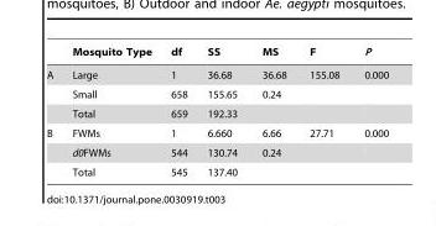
<table><thead><tr><td></td><td>Mosquito Type</td><td>df</td><td>SS</td><td>MS</td><td>F</td><td>P</td></tr></thead><tbody><tr><td rowspan="3">A</td><td>Large</td><td>1</td><td>36.68</td><td>36.68</td><td>155.08</td><td>0.000</td></tr><tr><td>Small</td><td>658</td><td>155.65</td><td>0.24</td><td></td><td></td></tr><tr><td>Total</td><td>659</td><td>192.33</td><td></td><td></td><td></td></tr><tr><td rowspan="3">B</td><td>FWMs</td><td>1</td><td>6.660</td><td>6.66</td><td>27.71</td><td>0.000</td></tr><tr><td>d0FWMs</td><td>544</td><td>130.74</td><td>0.24</td><td></td><td></td></tr><tr><td>Total</td><td>545</td><td>137.40</td><td></td><td></td><td></td></tr></tbody></table>